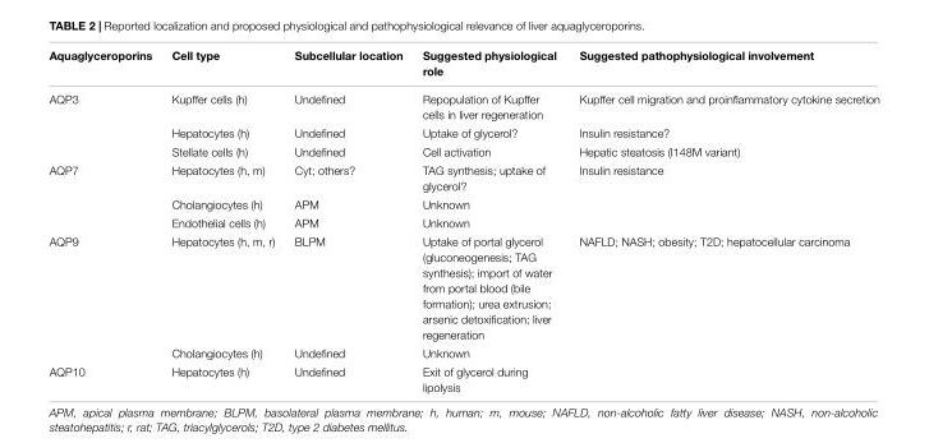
<table><thead><tr><td>Aquaglyceroporins</td><td>Cell type</td><td>Subcellular location</td><td>Suggested physiological role</td><td>Suggested pathophysiological involvement</td></tr></thead><tbody><tr><td rowspan="3">AQP3</td><td>Kupffer cells (h)</td><td>Undefined</td><td>Repopulation of Kupffer cells in liver regeneration</td><td>Kupffer cell migration and proinflammatory cytokine secretion</td></tr><tr><td>Hepatocytes (h)</td><td>Undefined</td><td>Uptake of glycerol?</td><td>Insulin resistance?</td></tr><tr><td>Stellate cells (h)</td><td>Undefined</td><td>Cell activation</td><td>Hepatic steatosis (I148M variant)</td></tr><tr><td rowspan="3">AQP7</td><td>Hepatocytes (h, m)</td><td>Cyt; others?</td><td>TAG synthesis; uptake of glycerol?</td><td>Insulin resistance</td></tr><tr><td>Cholangiocytes (h)</td><td>APM</td><td>Unknown</td><td></td></tr><tr><td>Endothelial cells (h)</td><td>APM</td><td>Unknown</td><td></td></tr><tr><td rowspan="2">AQP9</td><td>Hepatocytes (h, m, r)</td><td>BLPM</td><td>Uptake of portal glycerol (gluconeogenesis; TAG synthesis); import of water from portal blood (bile formation); urea extrusion; arsenic detoxification; liver regeneration</td><td>NAFLD; NASH; obesity; T2D; hepatocellular carcinoma</td></tr><tr><td>Cholangiocytes (h)</td><td>Undefined</td><td>Unknown</td><td></td></tr><tr><td>AQP10</td><td>Hepatocytes (h)</td><td>Undefined</td><td>Exit of glycerol during lipolysis</td><td></td></tr></tbody></table>